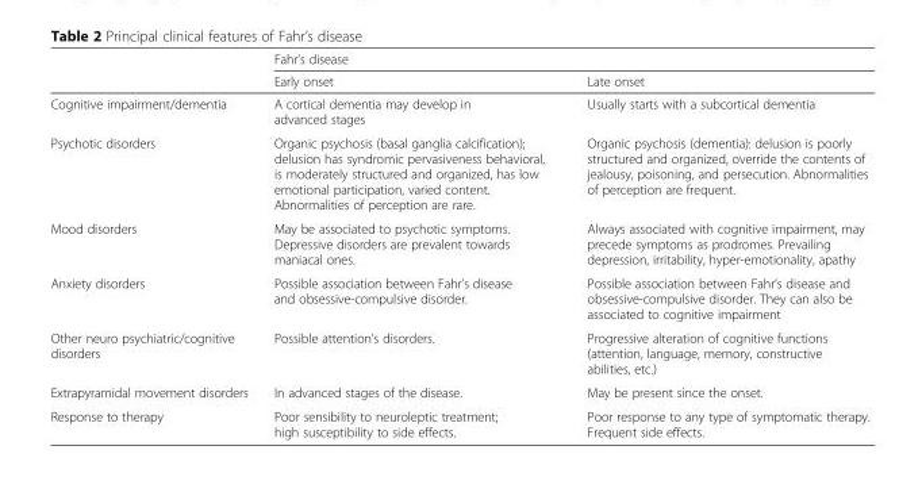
<table><thead><tr><td rowspan="2"></td><td colspan="2">Fahr’s disease</td></tr><tr><td>Early onset</td><td>Late onset</td></tr></thead><tbody><tr><td>Cognitive impairment/dementia</td><td>A cortical dementia may develop in advanced stages</td><td>Usually starts with a subcortical dementia</td></tr><tr><td>Psychotic disorders</td><td>Organic psychosis (basal ganglia calcification); delusion has syndromic pervasiveness behavioral, is moderately structured and organized, has low emotional participation, varied content. Abnormalities of perception are rare.</td><td>Organic psychosis (dementia): delusion is poorly structured and organized, override the contents of jealousy, poisoning, and persecution. Abnormalities of perception are frequent.</td></tr><tr><td>Mood disorders</td><td>May be associated to psychotic symptoms. Depressive disorders are prevalent towards maniacal ones.</td><td>Always associated with cognitive impairment, may precede symptoms as prodromes. Prevailing depression, irritability, hyper-emotionality, apathy</td></tr><tr><td>Anxiety disorders</td><td>Possible association between Fahr’s disease and obsessive-compulsive disorder.</td><td>Possible association between Fahr’s disease and obsessive-compulsive disorder. They can also be associated to cognitive impairment</td></tr><tr><td>Other neuro psychiatric/cognitive disorders</td><td>Possible attention’s disorders.</td><td>Progressive alteration of cognitive functions (attention, language, memory, constructive abilities, etc.)</td></tr><tr><td>Extrapyramidal movement disorders</td><td>In advanced stages of the disease.</td><td>May be present since the onset.</td></tr><tr><td>Response to therapy</td><td>Poor sensibility to neuroleptic treatment; high susceptibility to side effects.</td><td>Poor response to any type of symptomatic therapy. Frequent side effects.</td></tr></tbody></table>